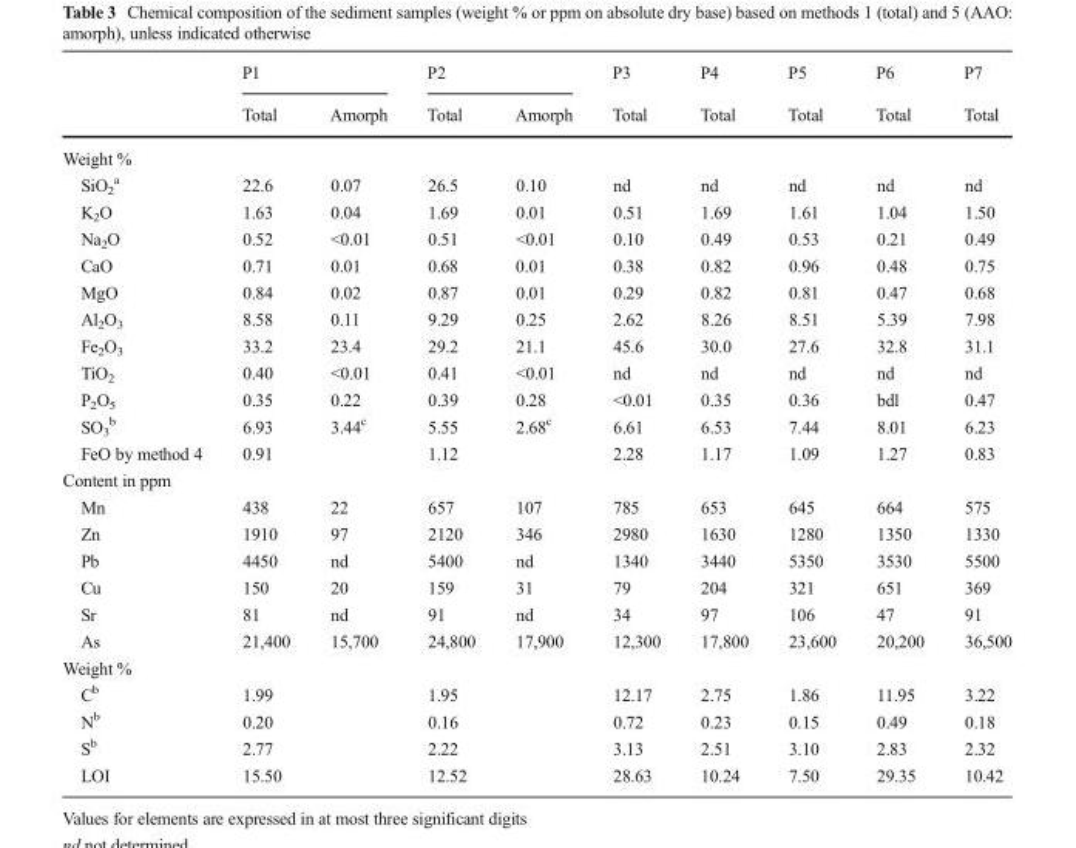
<table><thead><tr><td rowspan="2"></td><td colspan="2">P1</td><td colspan="2">P2</td><td rowspan="2">P3 Total</td><td rowspan="2">P4 Total</td><td rowspan="2">P5 Total</td><td rowspan="2">P6 Total</td><td rowspan="2">P7 Total</td></tr><tr><td>Total</td><td>Amorph</td><td>Total</td><td>Amorph</td></tr></thead><tbody><tr><td colspan="10">Weight %</td></tr><tr><td>SiO<sub>2</sub> <sup>a</sup></td><td>22.6</td><td>0.07</td><td>26.5</td><td>0.10</td><td>nd</td><td>nd</td><td>nd</td><td>nd</td><td>nd</td></tr><tr><td>K<sub>2</sub>O</td><td>1.63</td><td>0.04</td><td>1.69</td><td>0.01</td><td>0.51</td><td>1.69</td><td>1.61</td><td>1.04</td><td>1.50</td></tr><tr><td>Na<sub>2</sub>O</td><td>0.52</td><td>&lt;0.01</td><td>0.51</td><td>&lt;0.01</td><td>0.10</td><td>0.49</td><td>0.53</td><td>0.21</td><td>0.49</td></tr><tr><td>CaO</td><td>0.71</td><td>0.01</td><td>0.68</td><td>0.01</td><td>0.38</td><td>0.82</td><td>0.96</td><td>0.48</td><td>0.75</td></tr><tr><td>MgO</td><td>0.84</td><td>0.02</td><td>0.87</td><td>0.01</td><td>0.29</td><td>0.82</td><td>0.81</td><td>0.47</td><td>0.68</td></tr><tr><td>Al<sub>2</sub>O<sub>3</sub></td><td>8.58</td><td>0.11</td><td>9.29</td><td>0.25</td><td>2.62</td><td>8.26</td><td>8.51</td><td>5.39</td><td>7.98</td></tr><tr><td>Fe<sub>2</sub>O<sub>3</sub></td><td>33.2</td><td>23.4</td><td>29.2</td><td>21.1</td><td>45.6</td><td>30.0</td><td>27.6</td><td>32.8</td><td>31.1</td></tr><tr><td>TiO<sub>2</sub></td><td>0.40</td><td>&lt;0.01</td><td>0.41</td><td>&lt;0.01</td><td>nd</td><td>nd</td><td>nd</td><td>nd</td><td>nd</td></tr><tr><td>P<sub>2</sub>O<sub>5</sub></td><td>0.35</td><td>0.22</td><td>0.39</td><td>0.28</td><td>&lt;0.01</td><td>0.35</td><td>0.36</td><td>bdl</td><td>0.47</td></tr><tr><td>SO<sub>3</sub> <sup>b</sup></td><td>6.93</td><td>3.44<sup>c</sup></td><td>5.55</td><td>2.68<sup>c</sup></td><td>6.61</td><td>6.53</td><td>7.44</td><td>8.01</td><td>6.23</td></tr><tr><td>FeO by method 4</td><td>0.91</td><td></td><td>1.12</td><td></td><td>2.28</td><td>1.17</td><td>1.09</td><td>1.27</td><td>0.83</td></tr><tr><td colspan="10">Content in ppm</td></tr><tr><td>Mn</td><td>438</td><td>22</td><td>657</td><td>107</td><td>785</td><td>653</td><td>645</td><td>664</td><td>575</td></tr><tr><td>Zn</td><td>1910</td><td>97</td><td>2120</td><td>346</td><td>2980</td><td>1630</td><td>1280</td><td>1350</td><td>1330</td></tr><tr><td>Pb</td><td>4450</td><td>nd</td><td>5400</td><td>nd</td><td>1340</td><td>3440</td><td>5350</td><td>3530</td><td>5500</td></tr><tr><td>Cu</td><td>150</td><td>20</td><td>159</td><td>31</td><td>79</td><td>204</td><td>321</td><td>651</td><td>369</td></tr><tr><td>Sr</td><td>81</td><td>nd</td><td>91</td><td>nd</td><td>34</td><td>97</td><td>106</td><td>47</td><td>91</td></tr><tr><td>As</td><td>21,400</td><td>15,700</td><td>24,800</td><td>17,900</td><td>12,300</td><td>17,800</td><td>23,600</td><td>20,200</td><td>36,500</td></tr><tr><td colspan="10">Weight %</td></tr><tr><td>C<sup>b</sup></td><td>1.99</td><td></td><td>1.95</td><td></td><td>12.17</td><td>2.75</td><td>1.86</td><td>11.95</td><td>3.22</td></tr><tr><td>N<sup>b</sup></td><td>0.20</td><td></td><td>0.16</td><td></td><td>0.72</td><td>0.23</td><td>0.15</td><td>0.49</td><td>0.18</td></tr><tr><td>S<sup>b</sup></td><td>2.77</td><td></td><td>2.22</td><td></td><td>3.13</td><td>2.51</td><td>3.10</td><td>2.83</td><td>2.32</td></tr><tr><td>LOI</td><td>15.50</td><td></td><td>12.52</td><td></td><td>28.63</td><td>10.24</td><td>7.50</td><td>29.35</td><td>10.42</td></tr></tbody></table>